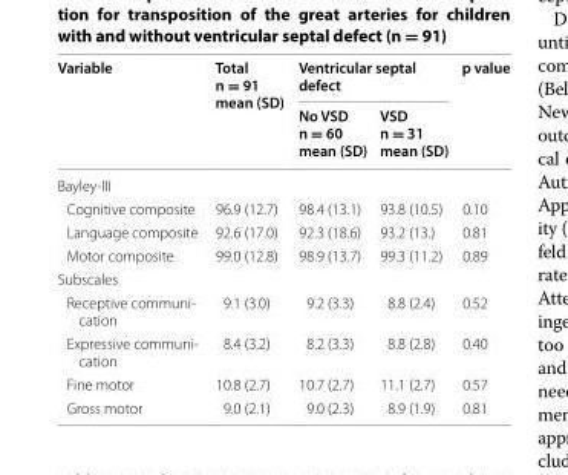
<table><thead><tr><td rowspan="2">Variable</td><td rowspan="2">Total n = 91 mean (SD)</td><td colspan="2">Ventricular septal defect</td><td rowspan="2">p value</td></tr><tr><td>No VSD n = 60 mean (SD)</td><td>VSD n = 31 mean (SD)</td></tr></thead><tbody><tr><td colspan="5">Bayley-III</td></tr><tr><td>Cognitive composite</td><td>96.9 (12.7)</td><td>98.4 (13.1)</td><td>93.8 (10.5)</td><td>0.10</td></tr><tr><td>Language composite</td><td>92.6 (17.0)</td><td>92.3 (18.6)</td><td>93.2 (13.)</td><td>0.81</td></tr><tr><td>Motor composite</td><td>99.0 (12.8)</td><td>98.9 (13.7)</td><td>99.3 (11.2)</td><td>0.89</td></tr><tr><td colspan="5">Subscales</td></tr><tr><td>Receptive communi- cation</td><td>9.1 (3.0)</td><td>9.2 (3.3)</td><td>8.8 (2.4)</td><td>0.52</td></tr><tr><td>Expressive communi- cation</td><td>8.4 (3.2)</td><td>8.2 (3.3)</td><td>8.8 (2.8)</td><td>0.40</td></tr><tr><td>Fine motor</td><td>10.8 (2.7)</td><td>10.7 (2.7)</td><td>11.1 (2.7)</td><td>0.57</td></tr><tr><td>Gross motor</td><td>9.0 (2.1)</td><td>9.0 (2.3)</td><td>8.9 (1.9)</td><td>0.81</td></tr></tbody></table>